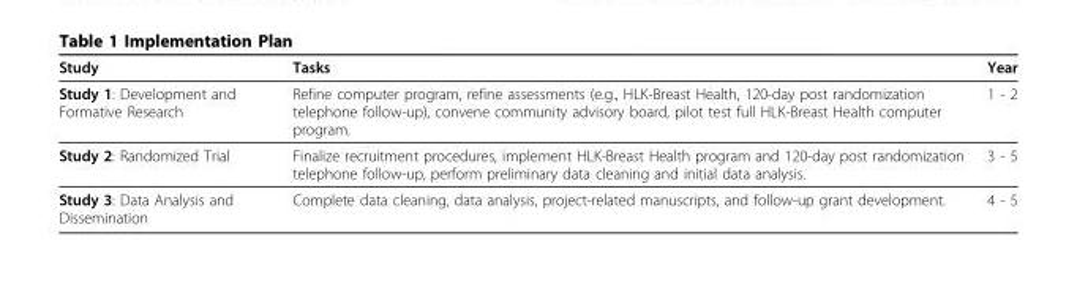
<table><thead><tr><td>Study</td><td>Tasks</td><td>Year</td></tr></thead><tbody><tr><td>Study 1: Development and Formative Research</td><td>Refine computer program, refine assessments (e.g., HLK-Breast Health, 120-day post randomization telephone follow-up), convene community advisory board, pilot test full HLK-Breast Health computer program.</td><td>1 - 2</td></tr><tr><td>Study 2: Randomized Trial</td><td>Finalize recruitment procedures, implement HLK-Breast Health program and 120-day post randomization telephone follow-up, perform preliminary data cleaning and initial data analysis.</td><td>3 - 5</td></tr><tr><td>Study 3: Data Analysis and Dissemination</td><td>Complete data cleaning, data analysis, project-related manuscripts, and follow-up grant development.</td><td>4 - 5</td></tr></tbody></table>